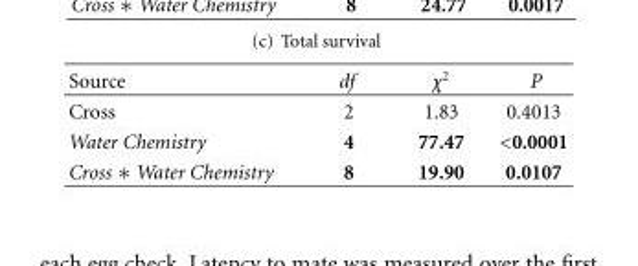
<table><thead><tr><td>Source</td><td>df</td><td>χ<sup>2</sup></td><td>P</td></tr></thead><tbody><tr><td>Cross</td><td>2</td><td>1.83</td><td>0.4013</td></tr><tr><td>Water Chemistry</td><td>4</td><td>77.47</td><td>&lt;0.0001</td></tr><tr><td>Cross ∗ Water Chemistry</td><td>8</td><td>19.90</td><td>0.0107</td></tr></tbody></table>